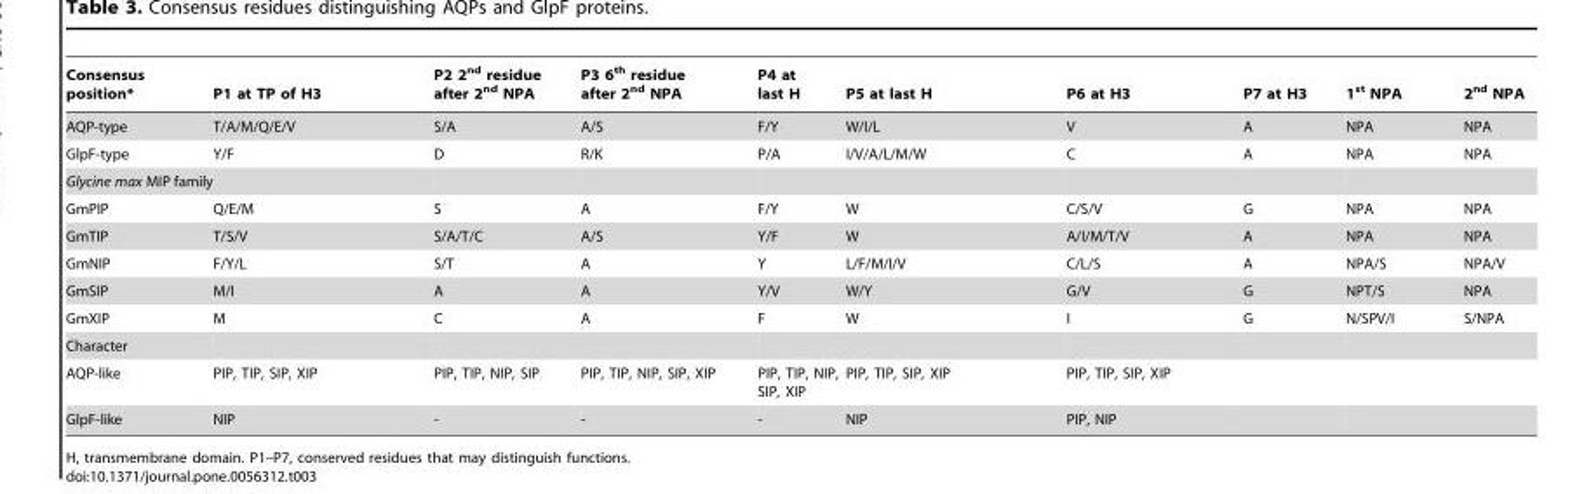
<table><thead><tr><td>Consensus position*</td><td>P1 at TP of H3</td><td>P2 2<sup>nd</sup> residue after 2<sup>nd</sup> NPA</td><td>P3 6<sup>th</sup> residue after 2<sup>nd</sup> NPA</td><td>P4 at last H</td><td>P5 at last H</td><td>P6 at H3</td><td>P7 at H3</td><td>1<sup>st</sup> NPA</td><td>2<sup>nd</sup> NPA</td></tr></thead><tbody><tr><td>AQP-type</td><td>T/A/M/Q/E/V</td><td>S/A</td><td>A/S</td><td>F/Y</td><td>W/I/L</td><td>V</td><td>A</td><td>NPA</td><td>NPA</td></tr><tr><td>GlpF-type</td><td>Y/F</td><td>D</td><td>R/K</td><td>P/A</td><td>I/V/A/L/M/W</td><td>C</td><td>A</td><td>NPA</td><td>NPA</td></tr><tr><td colspan="10">Glycine max MIP family</td></tr><tr><td>GmPIP</td><td>Q/E/M</td><td>S</td><td>A</td><td>F/Y</td><td>W</td><td>C/S/V</td><td>G</td><td>NPA</td><td>NPA</td></tr><tr><td>GmTIP</td><td>T/S/V</td><td>S/A/T/C</td><td>A/S</td><td>Y/F</td><td>W</td><td>A/I/M/T/V</td><td>A</td><td>NPA</td><td>NPA</td></tr><tr><td>GmNIP</td><td>F/Y/L</td><td>S/T</td><td>A</td><td>Y</td><td>L/F/M/I/V</td><td>C/L/S</td><td>A</td><td>NPA/S</td><td>NPA/V</td></tr><tr><td>GmSIP</td><td>M/I</td><td>A</td><td>A</td><td>Y/V</td><td>W/Y</td><td>G/V</td><td>G</td><td>NPT/S</td><td>NPA</td></tr><tr><td>GmXIP</td><td>M</td><td>C</td><td>A</td><td>F</td><td>W</td><td>I</td><td>G</td><td>N/SPV/I</td><td>S/NPA</td></tr><tr><td colspan="10">Character</td></tr><tr><td>AQP-like</td><td>PIP, TIP, SIP, XIP</td><td>PIP, TIP, NIP, SIP</td><td>PIP, TIP, NIP, SIP, XIP</td><td>PIP, TIP, NIP, SIP, XIP</td><td>PIP, TIP, SIP, XIP</td><td>PIP, TIP, SIP, XIP</td><td></td><td></td><td></td></tr><tr><td>GlpF-like</td><td>NIP</td><td>-</td><td>-</td><td>-</td><td>NIP</td><td>PIP, NIP</td><td></td><td></td><td></td></tr></tbody></table>